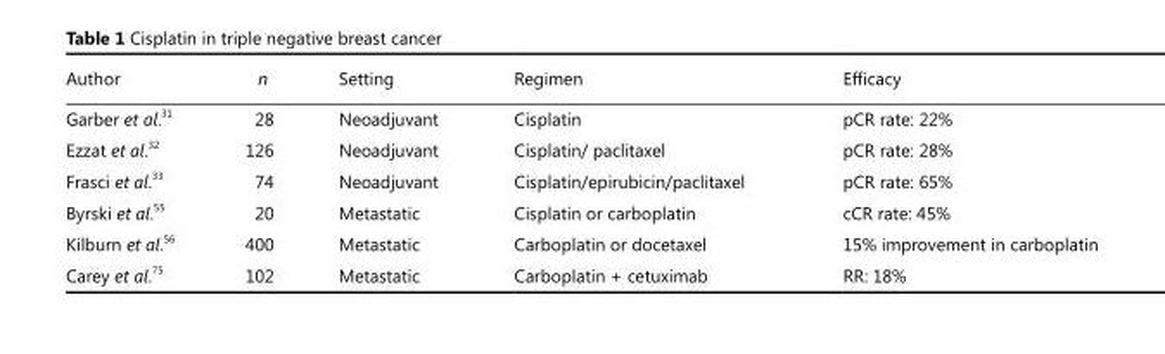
<table><thead><tr><td>Author</td><td>n</td><td>Setting</td><td>Regimen</td><td>Efficacy</td></tr></thead><tbody><tr><td>Garber et al. <sup>31</sup></td><td>28</td><td>Neoadjuvant</td><td>Cisplatin</td><td>pCR rate: 22%</td></tr><tr><td>Ezzat et al. <sup>32</sup></td><td>126</td><td>Neoadjuvant</td><td>Cisplatin/ paclitaxel</td><td>pCR rate: 28%</td></tr><tr><td>Frasci et al. <sup>33</sup></td><td>74</td><td>Neoadjuvant</td><td>Cisplatin/epirubicin/paclitaxel</td><td>pCR rate: 65%</td></tr><tr><td>Byrski et al. <sup>55</sup></td><td>20</td><td>Metastatic</td><td>Cisplatin or carboplatin</td><td>cCR rate: 45%</td></tr><tr><td>Kilburn et al. <sup>56</sup></td><td>400</td><td>Metastatic</td><td>Carboplatin or docetaxel</td><td>15% improvement in carboplatin</td></tr><tr><td>Carey et al. <sup>75</sup></td><td>102</td><td>Metastatic</td><td>Carboplatin + cetuximab</td><td>RR: 18%</td></tr></tbody></table>